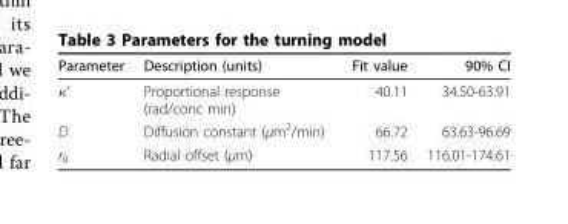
<table><thead><tr><td>Parameter</td><td>Description (units)</td><td>Fit value</td><td>90% CI</td></tr></thead><tbody><tr><td>κ’</td><td>Proportional response (rad/conc min)</td><td>40.11</td><td>34.50-63.91</td></tr><tr><td>D</td><td>Diffusion constant (μm<sup>2</sup>/min)</td><td>66.72</td><td>63.63-96.69</td></tr><tr><td>r<sub>0</sub></td><td>Radial offset (μm)</td><td>117.56</td><td>116.01-174.61</td></tr></tbody></table>